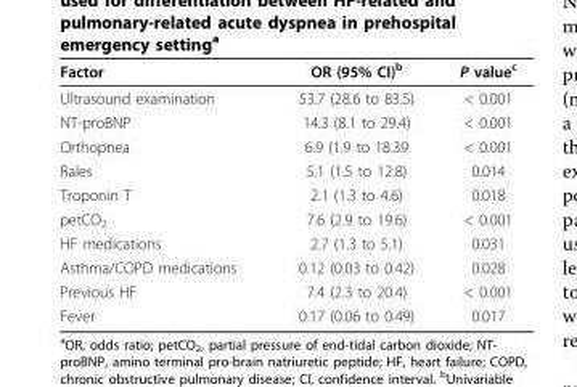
<table><thead><tr><td>Factor</td><td>OR (95% CI)<sup>b</sup></td><td>P value<sup>c</sup></td></tr></thead><tbody><tr><td>Ultrasound examination</td><td>53.7 (28.6 to 83.5)</td><td>&lt; 0.001</td></tr><tr><td>NT-proBNP</td><td>14.3 (8.1 to 29.4)</td><td>&lt; 0.001</td></tr><tr><td>Orthopnea</td><td>6.9 (1.9 to 18.39</td><td>&lt; 0.001</td></tr><tr><td>Rales</td><td>5.1 (1.5 to 12.8)</td><td>0.014</td></tr><tr><td>Troponin T</td><td>2.1 (1.3 to 4.6)</td><td>0.018</td></tr><tr><td>petCO<sub>2</sub></td><td>7.6 (2.9 to 19.6)</td><td>&lt; 0.001</td></tr><tr><td>HF medications</td><td>2.7 (1.3 to 5.1)</td><td>0.031</td></tr><tr><td>Asthma/COPD medications</td><td>0.12 (0.03 to 0.42)</td><td>0.028</td></tr><tr><td>Previous HF</td><td>7.4 (2.3 to 20.4)</td><td>&lt; 0.001</td></tr><tr><td>Fever</td><td>0.17 (0.06 to 0.49)</td><td>0.017</td></tr></tbody></table>